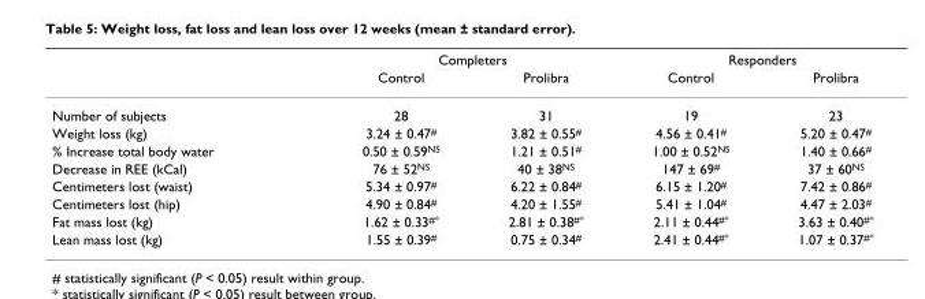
<table><thead><tr><td rowspan="2"></td><td colspan="2">Completers</td><td colspan="2">Responders</td></tr><tr><td>Control</td><td>Prolibra</td><td>Control</td><td>Prolibra</td></tr></thead><tbody><tr><td>Number of subjects</td><td>28</td><td>31</td><td>19</td><td>23</td></tr><tr><td>Weight loss (kg)</td><td>3.24 ± 0.47<sup>#</sup></td><td>3.82 ± 0.55<sup>#</sup></td><td>4.56 ± 0.41<sup>#</sup></td><td>5.20 ± 0.47<sup>#</sup></td></tr><tr><td>% Increase total body water</td><td>0.50 ± 0.59<sup>NS</sup></td><td>1.21 ± 0.51<sup>#</sup></td><td>1.00 ± 0.52<sup>NS</sup></td><td>1.40 ± 0.66<sup>#</sup></td></tr><tr><td>Decrease in REE (kCal)</td><td>76 ± 52<sup>NS</sup></td><td>40 ± 38<sup>NS</sup></td><td>147 ± 69<sup>#</sup></td><td>37 ± 60<sup>NS</sup></td></tr><tr><td>Centimeters lost (waist)</td><td>5.34 ± 0.97<sup>#</sup></td><td>6.22 ± 0.84<sup>#</sup></td><td>6.15 ± 1.20<sup>#</sup></td><td>7.42 ± 0.86<sup>#</sup></td></tr><tr><td>Centimeters lost (hip)</td><td>4.90 ± 0.84<sup>#</sup></td><td>4.20 ± 1.55<sup>#</sup></td><td>5.41 ± 1.04<sup>#</sup></td><td>4.47 ± 2.03<sup>#</sup></td></tr><tr><td>Fat mass lost (kg)</td><td>1.62 ± 0.33<sup>#*</sup></td><td>2.81 ± 0.38<sup>#*</sup></td><td>2.11 ± 0.44<sup>#*</sup></td><td>3.63 ± 0.40<sup>#*</sup></td></tr><tr><td>Lean mass lost (kg)</td><td>1.55 ± 0.39<sup>#</sup></td><td>0.75 ± 0.34<sup>#</sup></td><td>2.41 ± 0.44<sup>#*</sup></td><td>1.07 ± 0.37<sup>#*</sup></td></tr></tbody></table>